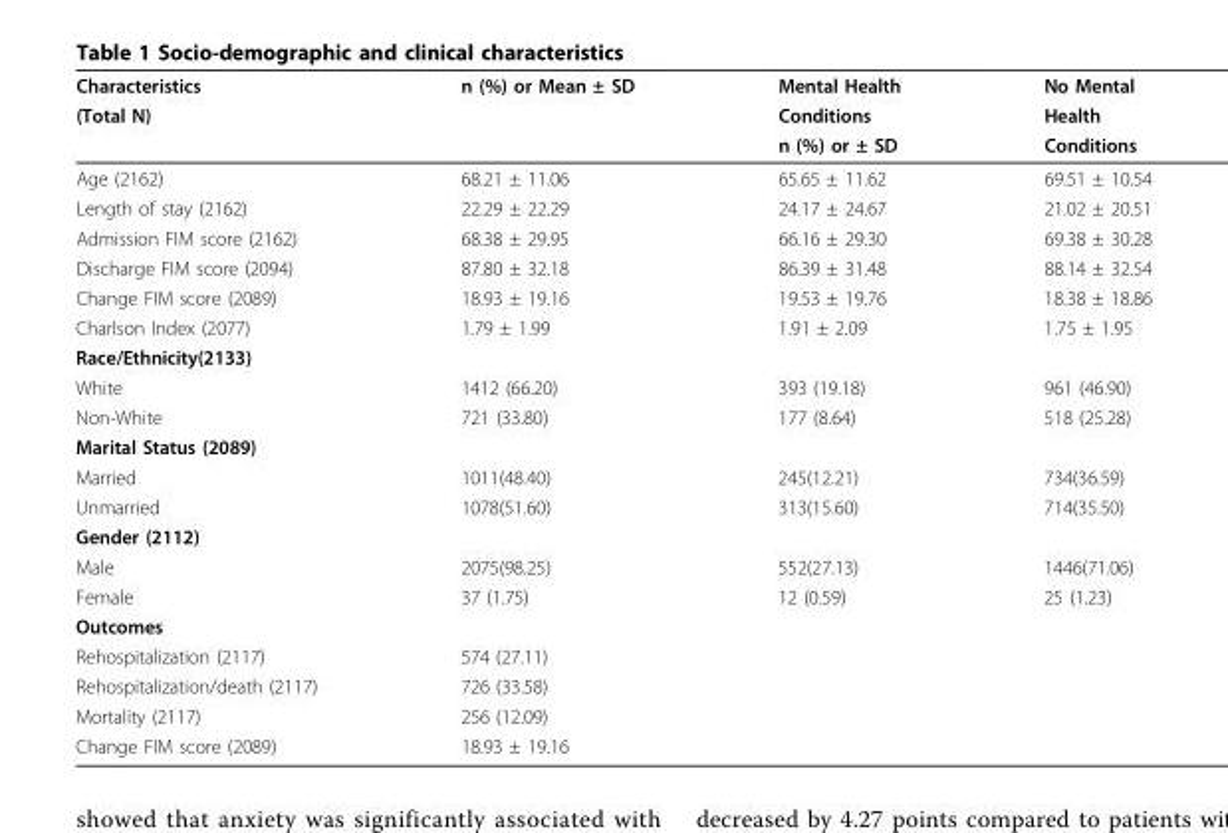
<table><thead><tr><td rowspan="3">Characteristics (Total N)</td><td rowspan="3">n (%) or Mean ± SD</td><td rowspan="3">Mental Health Conditions n (%) or ± SD</td><td rowspan="3">No Mental Health Conditions</td></tr><tr></tr><tr></tr></thead><tbody><tr><td>Age (2162)</td><td>68.21 ± 11.06</td><td>65.65 ± 11.62</td><td>69.51 ± 10.54</td></tr><tr><td>Length of stay (2162)</td><td>22.29 ± 22.29</td><td>24.17 ± 24.67</td><td>21.02 ± 20.51</td></tr><tr><td>Admission FIM score (2162)</td><td>68.38 ± 29.95</td><td>66.16 ± 29.30</td><td>69.38 ± 30.28</td></tr><tr><td>Discharge FIM score (2094)</td><td>87.80 ± 32.18</td><td>86.39 ± 31.48</td><td>88.14 ± 32.54</td></tr><tr><td>Change FIM score (2089)</td><td>18.93 ± 19.16</td><td>19.53 ± 19.76</td><td>18.38 ± 18.86</td></tr><tr><td>Charlson Index (2077)</td><td>1.79 ± 1.99</td><td>1.91 ± 2.09</td><td>1.75 ± 1.95</td></tr><tr><td colspan="4">Race/Ethnicity(2133)</td></tr><tr><td>White</td><td>1412 (66.20)</td><td>393 (19.18)</td><td>961 (46.90)</td></tr><tr><td>Non-White</td><td>721 (33.80)</td><td>177 (8.64)</td><td>518 (25.28)</td></tr><tr><td colspan="4">Marital Status (2089)</td></tr><tr><td>Married</td><td>1011(48.40)</td><td>245(12.21)</td><td>734(36.59)</td></tr><tr><td>Unmarried</td><td>1078(51.60)</td><td>313(15.60)</td><td>714(35.50)</td></tr><tr><td colspan="4">Gender (2112)</td></tr><tr><td>Male</td><td>2075(98.25)</td><td>552(27.13)</td><td>1446(71.06)</td></tr><tr><td>Female</td><td>37 (1.75)</td><td>12 (0.59)</td><td>25 (1.23)</td></tr><tr><td colspan="4">Outcomes</td></tr><tr><td>Rehospitalization (2117)</td><td>574 (27.11)</td><td></td><td></td></tr><tr><td>Rehospitalization/death (2117)</td><td>726 (33.58)</td><td></td><td></td></tr><tr><td>Mortality (2117)</td><td>256 (12.09)</td><td></td><td></td></tr><tr><td>Change FIM score (2089)</td><td>18.93 ± 19.16</td><td></td><td></td></tr></tbody></table>